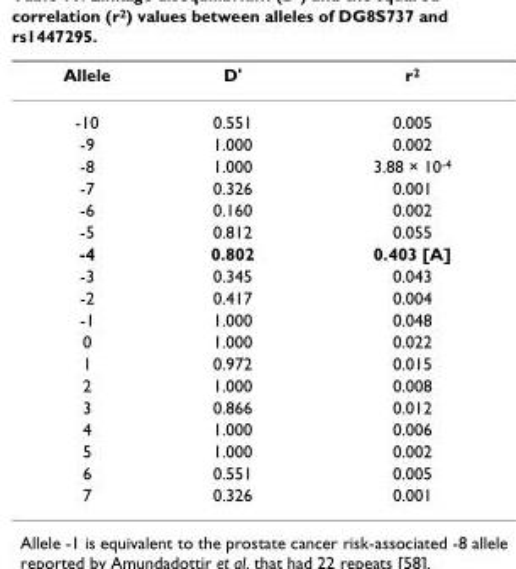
<table><thead><tr><td>Allele</td><td>D&#x27;</td><td>r<sup>2</sup></td></tr></thead><tbody><tr><td>-10</td><td>0.551</td><td>0.005</td></tr><tr><td>-9</td><td>1.000</td><td>0.002</td></tr><tr><td>-8</td><td>1.000</td><td>3.88 × 10<sup>-4</sup></td></tr><tr><td>-7</td><td>0.326</td><td>0.001</td></tr><tr><td>-6</td><td>0.160</td><td>0.002</td></tr><tr><td>-5</td><td>0.812</td><td>0.055</td></tr><tr><td>-4</td><td>0.802</td><td>0.403 [A]</td></tr><tr><td>-3</td><td>0.345</td><td>0.043</td></tr><tr><td>-2</td><td>0.417</td><td>0.004</td></tr><tr><td>-1</td><td>1.000</td><td>0.048</td></tr><tr><td>0</td><td>1.000</td><td>0.022</td></tr><tr><td>1</td><td>0.972</td><td>0.015</td></tr><tr><td>2</td><td>1.000</td><td>0.008</td></tr><tr><td>3</td><td>0.866</td><td>0.012</td></tr><tr><td>4</td><td>1.000</td><td>0.006</td></tr><tr><td>5</td><td>1.000</td><td>0.002</td></tr><tr><td>6</td><td>0.551</td><td>0.005</td></tr><tr><td>7</td><td>0.326</td><td>0.001</td></tr></tbody></table>